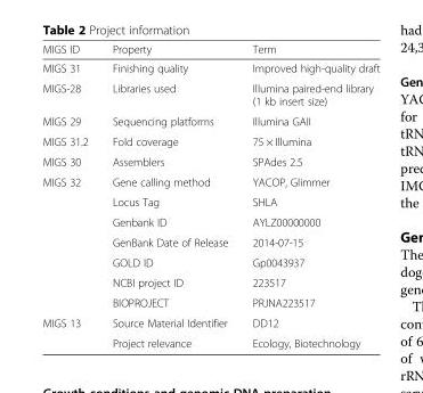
<table><thead><tr><td>MIGS ID</td><td>Property</td><td>Term</td></tr></thead><tbody><tr><td>MIGS 31</td><td>Finishing quality</td><td>Improved high-quality draft</td></tr><tr><td>MIGS-28</td><td>Libraries used</td><td>Illumina paired-end library (1 kb insert size)</td></tr><tr><td>MIGS 29</td><td>Sequencing platforms</td><td>Illumina GAII</td></tr><tr><td>MIGS 31.2</td><td>Fold coverage</td><td>75 × Illumina</td></tr><tr><td>MIGS 30</td><td>Assemblers</td><td>SPAdes 2.5</td></tr><tr><td rowspan="7">MIGS 32</td><td>Gene calling method</td><td>YACOP, Glimmer</td></tr><tr><td>Locus Tag</td><td>SHLA</td></tr><tr><td>Genbank ID</td><td>AYLZ00000000</td></tr><tr><td>GenBank Date of Release</td><td>2014-07-15</td></tr><tr><td>GOLD ID</td><td>Gp0043937</td></tr><tr><td>NCBI project ID</td><td>223517</td></tr><tr><td>BIOPROJECT</td><td>PRJNA223517</td></tr><tr><td rowspan="2">MIGS 13</td><td>Source Material Identifier</td><td>DD12</td></tr><tr><td>Project relevance</td><td>Ecology, Biotechnology</td></tr></tbody></table>